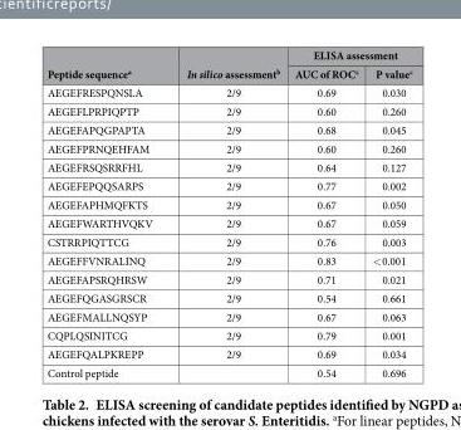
<table><thead><tr><td rowspan="2">Peptide sequence<sup>a</sup></td><td rowspan="2">In silico assessment<sup>b</sup></td><td colspan="2">ELISA assessment</td></tr><tr><td>AUC of ROC<sup>c</sup></td><td>P value<sup>c</sup></td></tr></thead><tbody><tr><td>AEGEFRESPQNSLA</td><td>2/9</td><td>0.69</td><td>0.030</td></tr><tr><td>AEGEFLPRPIQPTP</td><td>2/9</td><td>0.60</td><td>0.260</td></tr><tr><td>AEGEFAPQGPAPTA</td><td>2/9</td><td>0.68</td><td>0.045</td></tr><tr><td>AEGEFPRNQEHFAM</td><td>2/9</td><td>0.60</td><td>0.260</td></tr><tr><td>AEGEFRSQSRRFHL</td><td>2/9</td><td>0.64</td><td>0.127</td></tr><tr><td>AEGEFEPQQSARPS</td><td>2/9</td><td>0.77</td><td>0.002</td></tr><tr><td>AEGEFAPHMQFKTS</td><td>2/9</td><td>0.67</td><td>0.050</td></tr><tr><td>AEGEFWARTHVQKV</td><td>2/9</td><td>0.67</td><td>0.059</td></tr><tr><td>CSTRRPIQTTCG</td><td>2/9</td><td>0.76</td><td>0.003</td></tr><tr><td>AEGEFFVNRALINQ</td><td>2/9</td><td>0.83</td><td>&lt; 0.001</td></tr><tr><td>AEGEFAPSRQHRSW</td><td>2/9</td><td>0.71</td><td>0.021</td></tr><tr><td>AEGEFQGASGRSCR</td><td>2/9</td><td>0.54</td><td>0.661</td></tr><tr><td>AEGEFMALLNQSYP</td><td>2/9</td><td>0.67</td><td>0.063</td></tr><tr><td>CQPLQSINITCG</td><td>2/9</td><td>0.79</td><td>0.001</td></tr><tr><td>AEGEFQALPKREPP</td><td>2/9</td><td>0.69</td><td>0.034</td></tr><tr><td>Control peptide</td><td></td><td>0.54</td><td>0.696</td></tr></tbody></table>